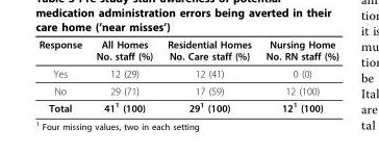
<table><thead><tr><td>Response</td><td>All Homes No. staff (%)</td><td>Residential Homes No. Care staff (%)</td><td>Nursing Home No. RN staff (%)</td></tr></thead><tbody><tr><td>Yes</td><td>12 (29)</td><td>12 (41)</td><td>0 (0)</td></tr><tr><td>No</td><td>29 (71)</td><td>17 (59)</td><td>12 (100)</td></tr><tr><td>Total</td><td>41<sup>1</sup> (100)</td><td>29<sup>1</sup> (100)</td><td>12<sup>1</sup> (100)</td></tr></tbody></table>